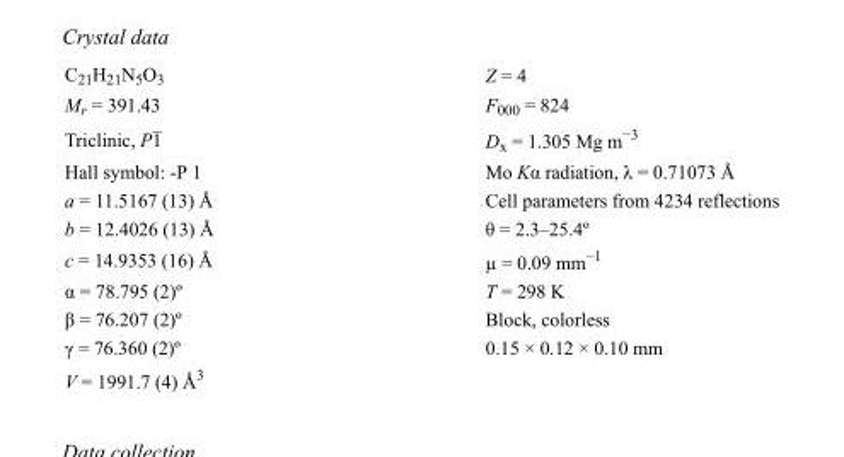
<table><tbody><tr><td>C<sub>21</sub>H<sub>21</sub>N<sub>5</sub>O<sub>3</sub></td><td>Z = 4</td></tr><tr><td>M<sub>r</sub> = 391.43</td><td>F000 = 824</td></tr><tr><td>Triclinic, P1</td><td>D<sub>x</sub> = 1.305 Mg m<sup>−3</sup></td></tr><tr><td>Hall symbol: -P 1</td><td>Mo Kα radiation, λ = 0.71073 Å</td></tr><tr><td>a = 11.5167 (13) Å</td><td>Cell parameters from 4234 reflections</td></tr><tr><td>b = 12.4026 (13) Å</td><td>θ = 2.3–25.4º</td></tr><tr><td>c = 14.9353 (16) Å</td><td>µ = 0.09 mm<sup>−1</sup></td></tr><tr><td>α = 78.795 (2)º</td><td>T = 298 K</td></tr><tr><td>β = 76.207 (2)º</td><td>Block, colorless</td></tr><tr><td>γ = 76.360 (2)º</td><td>0.15 × 0.12 × 0.10 mm</td></tr><tr><td>V = 1991.7 (4) Å<sup>3</sup></td><td></td></tr></tbody></table>